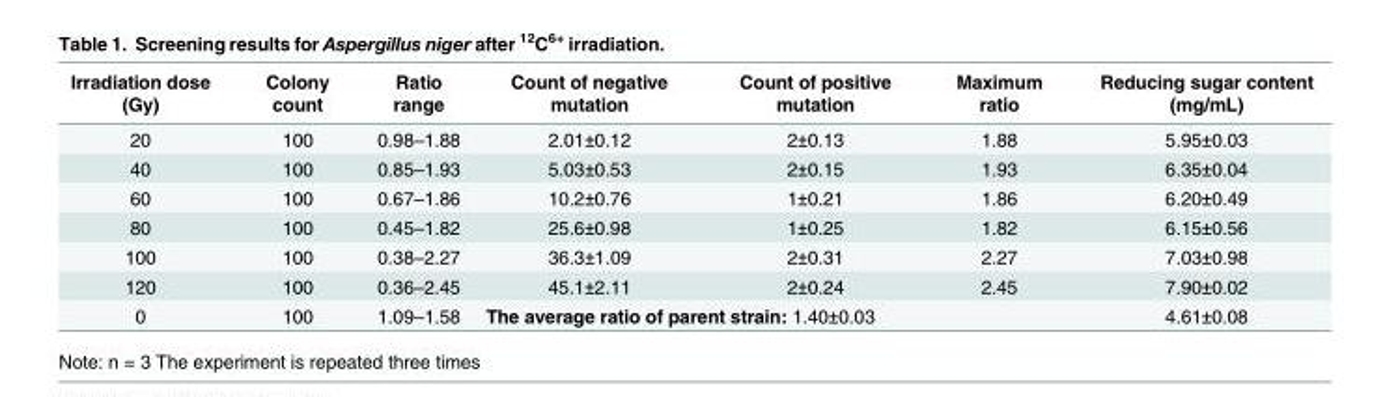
<table><thead><tr><td>Irradiation dose (Gy)</td><td>Colony count</td><td>Ratio range</td><td>Count of negative mutation</td><td>Count of positive mutation</td><td>Maximum ratio</td><td>Reducing sugar content (mg/mL)</td></tr></thead><tbody><tr><td>20</td><td>100</td><td>0.98–1.88</td><td>2.01±0.12</td><td>2±0.13</td><td>1.88</td><td>5.95±0.03</td></tr><tr><td>40</td><td>100</td><td>0.85–1.93</td><td>5.03±0.53</td><td>2±0.15</td><td>1.93</td><td>6.35±0.04</td></tr><tr><td>60</td><td>100</td><td>0.67–1.86</td><td>10.2±0.76</td><td>1±0.21</td><td>1.86</td><td>6.20±0.49</td></tr><tr><td>80</td><td>100</td><td>0.45–1.82</td><td>25.6±0.98</td><td>1±0.25</td><td>1.82</td><td>6.15±0.56</td></tr><tr><td>100</td><td>100</td><td>0.38–2.27</td><td>36.3±1.09</td><td>2±0.31</td><td>2.27</td><td>7.03±0.98</td></tr><tr><td>120</td><td>100</td><td>0.36–2.45</td><td>45.1±2.11</td><td>2±0.24</td><td>2.45</td><td>7.90±0.02</td></tr><tr><td>0</td><td>100</td><td>1.09–1.58</td><td colspan="3">The average ratio of parent strain: 1.40±0.03</td><td>4.61±0.08</td></tr></tbody></table>